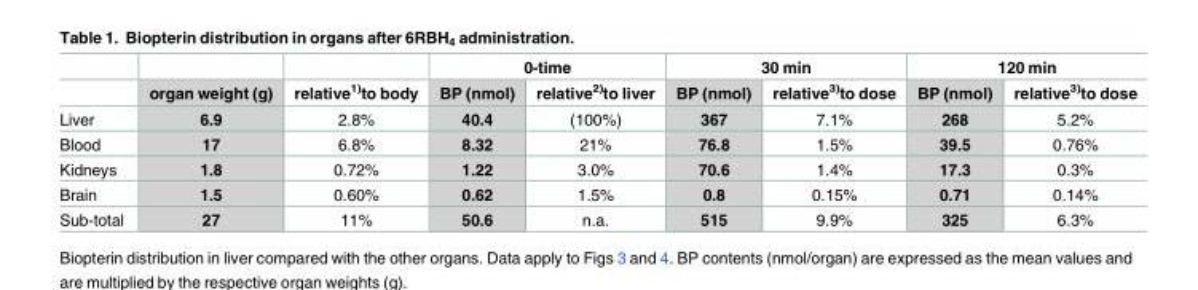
<table><thead><tr><td rowspan="2"></td><td rowspan="2">organ weight (g)</td><td rowspan="2">relative<sup>1)</sup>to body</td><td colspan="2">0-time</td><td colspan="2">30 min</td><td colspan="2">120 min</td></tr><tr><td>BP (nmol)</td><td>relative<sup>2)</sup>to liver</td><td>BP (nmol)</td><td>relative<sup>3)</sup>to dose</td><td>BP (nmol)</td><td>relative<sup>3)</sup>to dose</td></tr></thead><tbody><tr><td>Liver</td><td>6.9</td><td>2.8%</td><td>40.4</td><td>(100%)</td><td>367</td><td>7.1%</td><td>268</td><td>5.2%</td></tr><tr><td>Blood</td><td>17</td><td>6.8%</td><td>8.32</td><td>21%</td><td>76.8</td><td>1.5%</td><td>39.5</td><td>0.76%</td></tr><tr><td>Kidneys</td><td>1.8</td><td>0.72%</td><td>1.22</td><td>3.0%</td><td>70.6</td><td>1.4%</td><td>17.3</td><td>0.3%</td></tr><tr><td>Brain</td><td>1.5</td><td>0.60%</td><td>0.62</td><td>1.5%</td><td>0.8</td><td>0.15%</td><td>0.71</td><td>0.14%</td></tr><tr><td>Sub-total</td><td>27</td><td>11%</td><td>50.6</td><td>n.a.</td><td>515</td><td>9.9%</td><td>325</td><td>6.3%</td></tr></tbody></table>